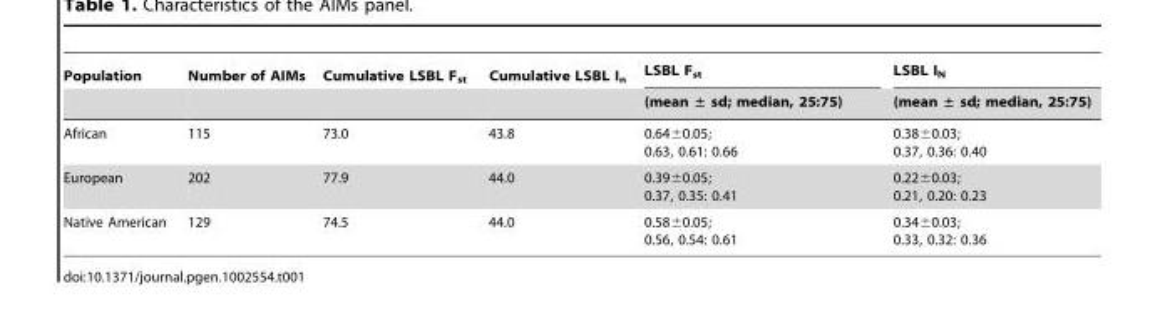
<table><thead><tr><td rowspan="2">Population</td><td rowspan="2">Number of AIMs</td><td rowspan="2">Cumulative LSBL F<sub>st</sub></td><td rowspan="2">Cumulative LSBL I<sub>n</sub></td><td rowspan="2">LSBL F<sub>st</sub> (mean ± sd; median, 25:75)</td><td rowspan="2">LSBL I<sub>N</sub> (mean ± sd; median, 25:75)</td></tr><tr></tr></thead><tbody><tr><td>African</td><td>115</td><td>73.0</td><td>43.8</td><td>0.64±0.05; 0.63, 0.61: 0.66</td><td>0.38±0.03; 0.37, 0.36: 0.40</td></tr><tr><td>European</td><td>202</td><td>77.9</td><td>44.0</td><td>0.39±0.05; 0.37, 0.35: 0.41</td><td>0.22±0.03; 0.21, 0.20: 0.23</td></tr><tr><td>Native American</td><td>129</td><td>74.5</td><td>44.0</td><td>0.58±0.05; 0.56, 0.54: 0.61</td><td>0.34±0.03; 0.33, 0.32: 0.36</td></tr></tbody></table>